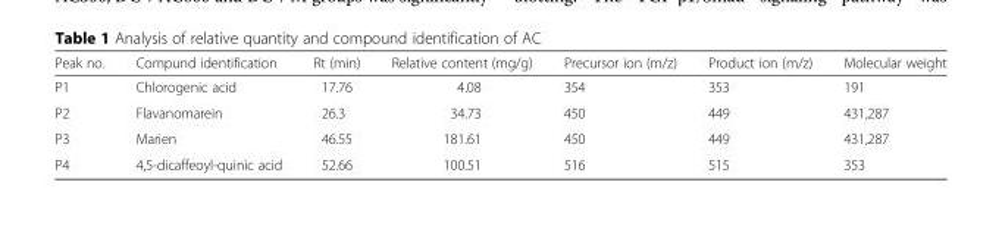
<table><thead><tr><td>Peak no.</td><td>Compund identification</td><td>Rt (min)</td><td>Relative content (mg/g)</td><td>Precursor ion (m/z)</td><td>Product ion (m/z)</td><td>Molecular weight</td></tr></thead><tbody><tr><td>P1</td><td>Chlorogenic acid</td><td>17.76</td><td>4.08</td><td>354</td><td>353</td><td>191</td></tr><tr><td>P2</td><td>Flavanomarein</td><td>26.3</td><td>34.73</td><td>450</td><td>449</td><td>431,287</td></tr><tr><td>P3</td><td>Marien</td><td>46.55</td><td>181.61</td><td>450</td><td>449</td><td>431,287</td></tr><tr><td>P4</td><td>4,5-dicaffeoyl-quinic acid</td><td>52.66</td><td>100.51</td><td>516</td><td>515</td><td>353</td></tr></tbody></table>